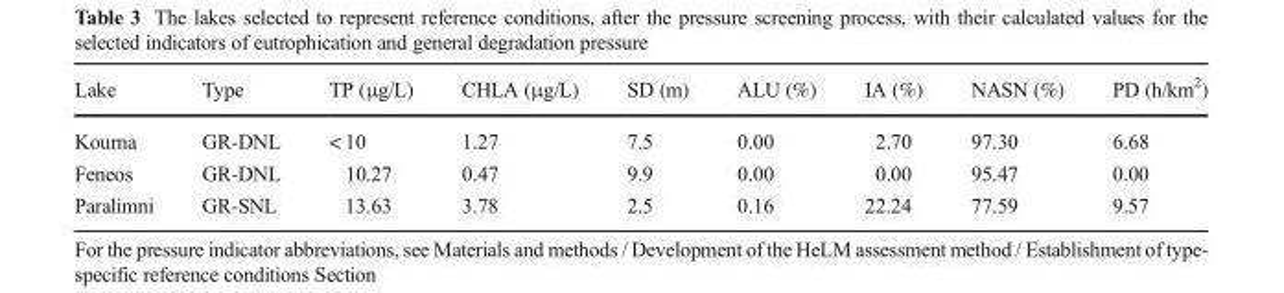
<table><thead><tr><td>Lake</td><td>Type</td><td>TP (μg/L)</td><td>CHLA (μg/L)</td><td>SD (m)</td><td>ALU (%)</td><td>IA (%)</td><td>NASN (%)</td><td>PD (h/km<sup>2</sup>)</td></tr></thead><tbody><tr><td>Kourna</td><td>GR-DNL</td><td>&lt; 10</td><td>1.27</td><td>7.5</td><td>0.00</td><td>2.70</td><td>97.30</td><td>6.68</td></tr><tr><td>Feneos</td><td>GR-DNL</td><td>10.27</td><td>0.47</td><td>9.9</td><td>0.00</td><td>0.00</td><td>95.47</td><td>0.00</td></tr><tr><td>Paralimni</td><td>GR-SNL</td><td>13.63</td><td>3.78</td><td>2.5</td><td>0.16</td><td>22.24</td><td>77.59</td><td>9.57</td></tr></tbody></table>